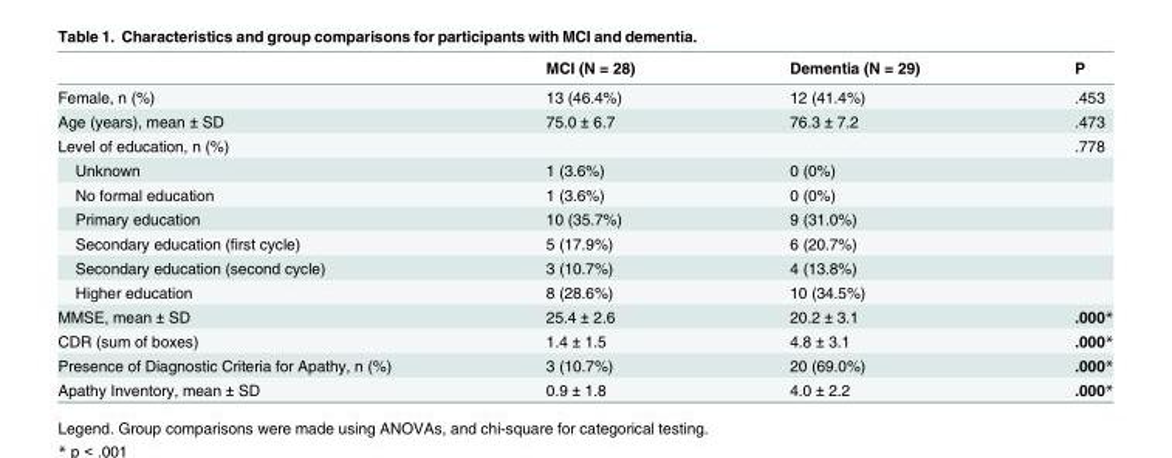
<table><thead><tr><td></td><td>MCI (N = 28)</td><td>Dementia (N = 29)</td><td>P</td></tr></thead><tbody><tr><td>Female, n (%)</td><td>13 (46.4%)</td><td>12 (41.4%)</td><td>.453</td></tr><tr><td>Age (years), mean ± SD</td><td>75.0 ± 6.7</td><td>76.3 ± 7.2</td><td>.473</td></tr><tr><td>Level of education, n (%)</td><td></td><td></td><td>.778</td></tr><tr><td>Unknown</td><td>1 (3.6%)</td><td>0 (0%)</td><td></td></tr><tr><td>No formal education</td><td>1 (3.6%)</td><td>0 (0%)</td><td></td></tr><tr><td>Primary education</td><td>10 (35.7%)</td><td>9 (31.0%)</td><td></td></tr><tr><td>Secondary education (first cycle)</td><td>5 (17.9%)</td><td>6 (20.7%)</td><td></td></tr><tr><td>Secondary education (second cycle)</td><td>3 (10.7%)</td><td>4 (13.8%)</td><td></td></tr><tr><td>Higher education</td><td>8 (28.6%)</td><td>10 (34.5%)</td><td></td></tr><tr><td>MMSE, mean ± SD</td><td>25.4 ± 2.6</td><td>20.2 ± 3.1</td><td>.000*</td></tr><tr><td>CDR (sum of boxes)</td><td>1.4 ± 1.5</td><td>4.8 ± 3.1</td><td>.000*</td></tr><tr><td>Presence of Diagnostic Criteria for Apathy, n (%)</td><td>3 (10.7%)</td><td>20 (69.0%)</td><td>.000*</td></tr><tr><td>Apathy Inventory, mean ± SD</td><td>0.9 ± 1.8</td><td>4.0 ± 2.2</td><td>.000*</td></tr></tbody></table>